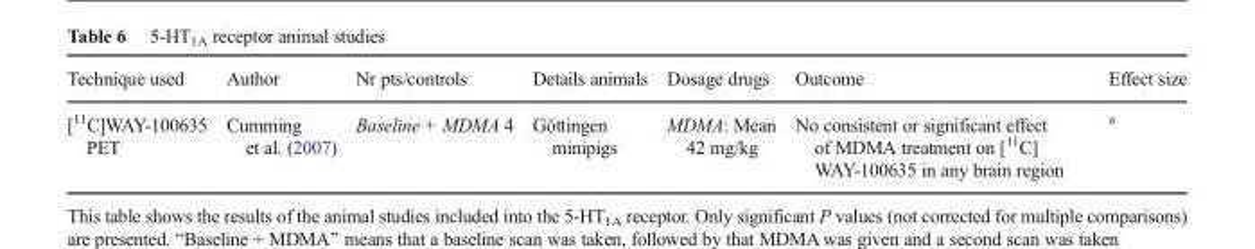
<table><thead><tr><td>Technique used</td><td>Author</td><td>Nr pts/controls</td><td>Details animals</td><td>Dosage drugs</td><td>Outcome</td><td>Effect size</td></tr></thead><tbody><tr><td>[<sup>11</sup>C]WAY-100635 PET</td><td>Cumming et al. (2007)</td><td>Baseline + MDMA 4</td><td>Göttingen minipigs</td><td>MDMA: Mean 42 mg/kg</td><td>No consistent or significant effect of MDMA treatment on [<sup>11</sup>C] WAY-100635 in any brain region</td><td><sup>a</sup></td></tr></tbody></table>